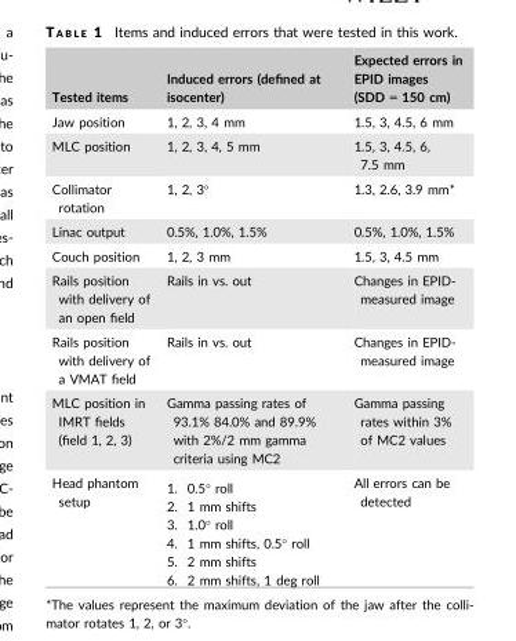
<table><thead><tr><td>Tested items</td><td>Induced errors (defined at isocenter)</td><td>Expected errors in EPID images (SDD = 150 cm)</td></tr></thead><tbody><tr><td>Jaw position</td><td>1, 2, 3, 4 mm</td><td>1.5, 3, 4.5, 6 mm</td></tr><tr><td>MLC position</td><td>1, 2, 3, 4, 5 mm</td><td>1.5, 3, 4.5, 6, 7.5 mm</td></tr><tr><td>Collimator rotation</td><td>1, 2, 3°</td><td>1.3, 2.6, 3.9 mm*</td></tr><tr><td>Linac output</td><td>0.5%, 1.0%, 1.5%</td><td>0.5%, 1.0%, 1.5%</td></tr><tr><td>Couch position</td><td>1, 2, 3 mm</td><td>1.5, 3, 4.5 mm</td></tr><tr><td>Rails position with delivery of an open field</td><td>Rails in vs. out</td><td>Changes in EPID- measured image</td></tr><tr><td>Rails position with delivery of a VMAT field</td><td>Rails in vs. out</td><td>Changes in EPID- measured image</td></tr><tr><td>MLC position in IMRT fields (field 1, 2, 3)</td><td>Gamma passing rates of 93.1% 84.0% and 89.9% with 2%/2 mm gamma criteria using MC2</td><td>Gamma passing rates within 3% of MC2 values</td></tr><tr><td>Head phantom setup</td><td>1. 0.5° roll 2. 1 mm shifts 3. 1.0° roll 4. 1 mm shifts, 0.5° roll 5. 2 mm shifts 6. 2 mm shifts, 1 deg roll</td><td>All errors can be detected</td></tr></tbody></table>